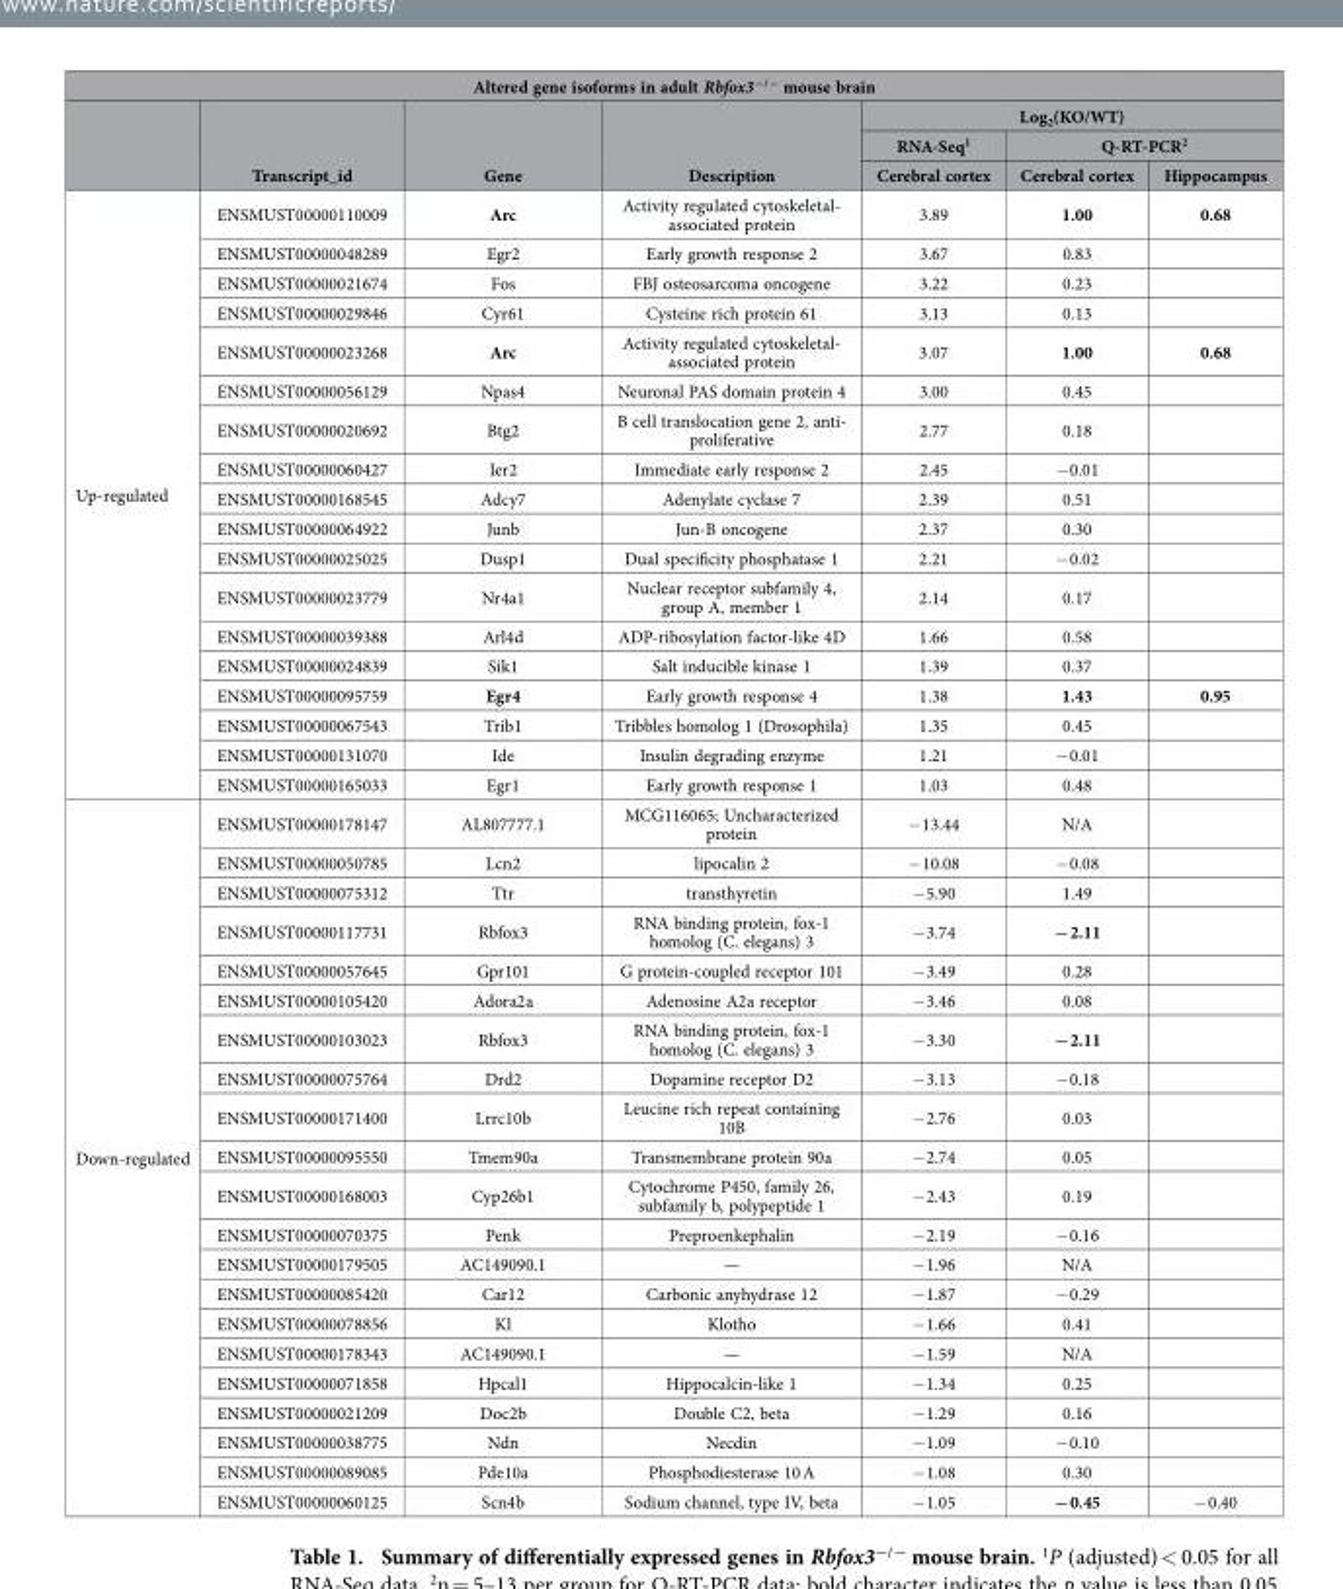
<table><thead><tr><td colspan="7">Altered gene isoforms in adult Rbfox3<sup>−/−</sup> mouse brain</td></tr><tr><td rowspan="3"></td><td rowspan="3">Transcript_id</td><td rowspan="3">Gene</td><td rowspan="3">Description</td><td colspan="3">Log2(KO/WT)</td></tr><tr><td rowspan="2">RNA-Seq<sup>1</sup> Cerebral cortex</td><td colspan="2">Q-RT-PCR<sup>2</sup></td></tr><tr><td>Cerebral cortex</td><td>Hippocampus</td></tr></thead><tbody><tr><td rowspan="18">Up-regulated</td><td>ENSMUST00000110009</td><td>Arc</td><td>Activity regulated cytoskeletal- associated protein</td><td>3.89</td><td>1.00</td><td>0.68</td></tr><tr><td>ENSMUST00000048289</td><td>Egr2</td><td>Early growth response 2</td><td>3.67</td><td>0.83</td><td></td></tr><tr><td>ENSMUST00000021674</td><td>Fos</td><td>FBJ osteosarcoma oncogene</td><td>3.22</td><td>0.23</td><td></td></tr><tr><td>ENSMUST00000029846</td><td>Cyr61</td><td>Cysteine rich protein 61</td><td>3.13</td><td>0.13</td><td></td></tr><tr><td>ENSMUST00000023268</td><td>Arc</td><td>Activity regulated cytoskeletal- associated protein</td><td>3.07</td><td>1.00</td><td>0.68</td></tr><tr><td>ENSMUST00000056129</td><td>Npas4</td><td>Neuronal PAS domain protein 4</td><td>3.00</td><td>0.45</td><td></td></tr><tr><td>ENSMUST00000020692</td><td>Btg2</td><td>B cell translocation gene 2, anti- proliferative</td><td>2.77</td><td>0.18</td><td></td></tr><tr><td>ENSMUST00000060427</td><td>Ier2</td><td>Immediate early response 2</td><td>2.45</td><td>− 0.01</td><td></td></tr><tr><td>ENSMUST00000168545</td><td>Adcy7</td><td>Adenylate cyclase 7</td><td>2.39</td><td>0.51</td><td></td></tr><tr><td>ENSMUST00000064922</td><td>Junb</td><td>Jun-B oncogene</td><td>2.37</td><td>0.30</td><td></td></tr><tr><td>ENSMUST00000025025</td><td>Dusp1</td><td>Dual specificity phosphatase 1</td><td>2.21</td><td>− 0.02</td><td></td></tr><tr><td>ENSMUST00000023779</td><td>Nr4a1</td><td>Nuclear receptor subfamily 4, group A, member 1</td><td>2.14</td><td>0.17</td><td></td></tr><tr><td>ENSMUST00000039388</td><td>Arl4d</td><td>ADP-ribosylation factor-like 4D</td><td>1.66</td><td>0.58</td><td></td></tr><tr><td>ENSMUST00000024839</td><td>Sik1</td><td>Salt inducible kinase 1</td><td>1.39</td><td>0.37</td><td></td></tr><tr><td>ENSMUST00000095759</td><td>Egr4</td><td>Early growth response 4</td><td>1.38</td><td>1.43</td><td>0.95</td></tr><tr><td>ENSMUST00000067543</td><td>Trib1</td><td>Tribbles homolog 1 (Drosophila)</td><td>1.35</td><td>0.45</td><td></td></tr><tr><td>ENSMUST00000131070</td><td>Ide</td><td>Insulin degrading enzyme</td><td>1.21</td><td>− 0.01</td><td></td></tr><tr><td>ENSMUST00000165033</td><td>Egr1</td><td>Early growth response 1</td><td>1.03</td><td>0.48</td><td></td></tr><tr><td rowspan="21">Down-regulated</td><td>ENSMUST00000178147</td><td>AL807777.1</td><td>MCG116065; Uncharacterized protein</td><td>− 13.44</td><td>N/A</td><td></td></tr><tr><td>ENSMUST00000050785</td><td>Lcn2</td><td>lipocalin 2</td><td>− 10.08</td><td>− 0.08</td><td></td></tr><tr><td>ENSMUST00000075312</td><td>Ttr</td><td>transthyretin</td><td>− 5.90</td><td>1.49</td><td></td></tr><tr><td>ENSMUST00000117731</td><td>Rbfox3</td><td>RNA binding protein, fox-1 homolog (C. elegans) 3</td><td>− 3.74</td><td>− 2.11</td><td></td></tr><tr><td>ENSMUST00000057645</td><td>Gpr101</td><td>G protein-coupled receptor 101</td><td>− 3.49</td><td>0.28</td><td></td></tr><tr><td>ENSMUST00000105420</td><td>Adora2a</td><td>Adenosine A2a receptor</td><td>− 3.46</td><td>0.08</td><td></td></tr><tr><td>ENSMUST00000103023</td><td>Rbfox3</td><td>RNA binding protein, fox-1 homolog (C. elegans) 3</td><td>− 3.30</td><td>− 2.11</td><td></td></tr><tr><td>ENSMUST00000075764</td><td>Drd2</td><td>Dopamine receptor D2</td><td>− 3.13</td><td>− 0.18</td><td></td></tr><tr><td>ENSMUST00000171400</td><td>Lrrc10b</td><td>Leucine rich repeat containing 10B</td><td>− 2.76</td><td>0.03</td><td></td></tr><tr><td>ENSMUST00000095550</td><td>Tmem90a</td><td>Transmembrane protein 90a</td><td>− 2.74</td><td>0.05</td><td></td></tr><tr><td>ENSMUST00000168003</td><td>Cyp26b1</td><td>Cytochrome P450, family 26, subfamily b, polypeptide 1</td><td>− 2.43</td><td>0.19</td><td></td></tr><tr><td>ENSMUST00000070375</td><td>Penk</td><td>Preproenkephalin</td><td>− 2.19</td><td>− 0.16</td><td></td></tr><tr><td>ENSMUST00000179505</td><td>AC149090.1</td><td>—</td><td>− 1.96</td><td>N/A</td><td></td></tr><tr><td>ENSMUST00000085420</td><td>Car12</td><td>Carbonic anyhydrase 12</td><td>− 1.87</td><td>− 0.29</td><td></td></tr><tr><td>ENSMUST00000078856</td><td>Kl</td><td>Klotho</td><td>− 1.66</td><td>0.41</td><td></td></tr><tr><td>ENSMUST00000178343</td><td>AC149090.1</td><td>—</td><td>− 1.59</td><td>N/A</td><td></td></tr><tr><td>ENSMUST00000071858</td><td>Hpcal1</td><td>Hippocalcin-like 1</td><td>− 1.34</td><td>0.25</td><td></td></tr><tr><td>ENSMUST00000021209</td><td>Doc2b</td><td>Double C2, beta</td><td>− 1.29</td><td>0.16</td><td></td></tr><tr><td>ENSMUST00000038775</td><td>Ndn</td><td>Necdin</td><td>− 1.09</td><td>− 0.10</td><td></td></tr><tr><td>ENSMUST00000089085</td><td>Pde10a</td><td>Phosphodiesterase 10 A</td><td>− 1.08</td><td>0.30</td><td></td></tr><tr><td>ENSMUST00000060125</td><td>Scn4b</td><td>Sodium channel, type IV, beta</td><td>− 1.05</td><td>− 0.45</td><td>− 0.40</td></tr></tbody></table>